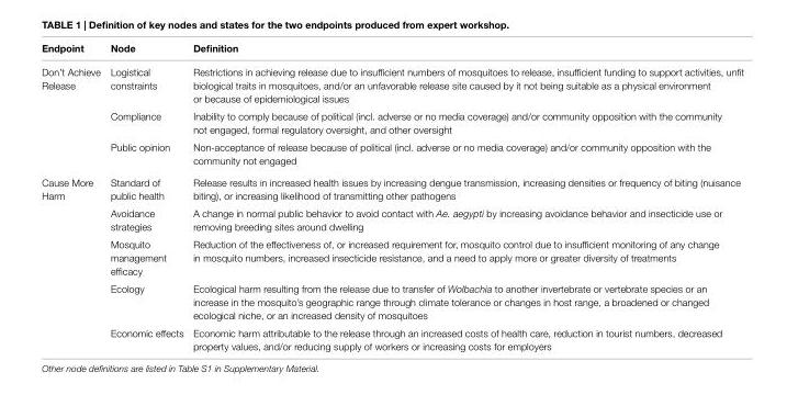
<table><thead><tr><td>endpoint</td><td>node</td><td>Definition</td></tr></thead><tbody><tr><td rowspan="3">Don’t Achieve Release</td><td>Logistical constraints</td><td>Restrictions in achieving release due to insufficient numbers of mosquitoes to release, insufficient funding to support activities, unfit biological traits in mosquitoes, and/or an unfavorable release site caused by it not being suitable as a physical environment or because of epidemiological issues</td></tr><tr><td>Compliance</td><td>Inability to comply because of political (incl. adverse or no media coverage) and/or community opposition with the community not engaged, formal regulatory oversight, and other oversight</td></tr><tr><td>Public opinion</td><td>Non-acceptance of release because of political (incl. adverse or no media coverage) and/or community opposition with the community not engaged</td></tr><tr><td rowspan="5">Cause More Harm</td><td>Standard of public health</td><td>Release results in increased health issues by increasing dengue transmission, increasing densities or frequency of biting (nuisance biting), or increasing likelihood of transmitting other pathogens</td></tr><tr><td>Avoidance strategies</td><td>A change in normal public behavior to avoid contact with Ae. aegypti by increasing avoidance behavior and insecticide use or removing breeding sites around dwelling</td></tr><tr><td>Mosquito management efficacy</td><td>Reduction of the effectiveness of, or increased requirement for, mosquito control due to insufficient monitoring of any change in mosquito numbers, increased insecticide resistance, and a need to apply more or greater diversity of treatments</td></tr><tr><td>Ecology</td><td>Ecological harm resulting from the release due to transfer of Wolbachia to another invertebrate or vertebrate species or an increase in the mosquito’s geographic range through climate tolerance or changes in host range, a broadened or changed ecological niche, or an increased density of mosquitoes</td></tr><tr><td>Economic effects</td><td>Economic harm attributable to the release through an increased costs of health care, reduction in tourist numbers, decreased property values, and/or reducing supply of workers or increasing costs for employers</td></tr></tbody></table>